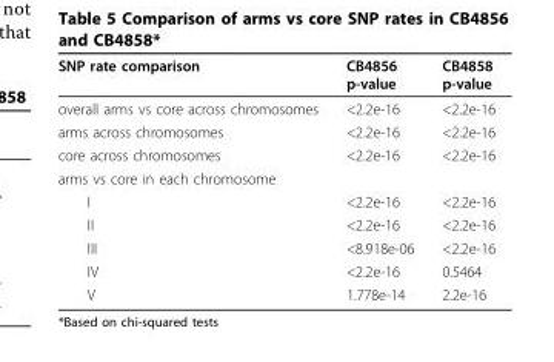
<table><thead><tr><td>SNP rate comparison</td><td>CB4856 p-value</td><td>CB4858 p-value</td></tr></thead><tbody><tr><td>overall arms vs core across chromosomes</td><td>&lt;2.2e-16</td><td>&lt;2.2e-16</td></tr><tr><td>arms across chromosomes</td><td>&lt;2.2e-16</td><td>&lt;2.2e-16</td></tr><tr><td>core across chromosomes</td><td>&lt;2.2e-16</td><td>&lt;2.2e-16</td></tr><tr><td colspan="3">arms vs core in each chromosome</td></tr><tr><td>I</td><td>&lt;2.2e-16</td><td>&lt;2.2e-16</td></tr><tr><td>II</td><td>&lt;2.2e-16</td><td>&lt;2.2e-16</td></tr><tr><td>III</td><td>&lt;8.918e-06</td><td>&lt;2.2e-16</td></tr><tr><td>IV</td><td>&lt;2.2e-16</td><td>0.5464</td></tr><tr><td>V</td><td>1.778e-14</td><td>2.2e-16</td></tr></tbody></table>